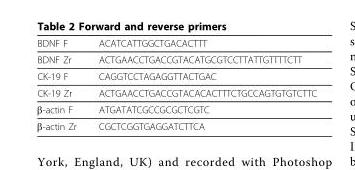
<table><thead><tr><td>BDNF F</td><td>ACATCATTGGCTGACACTTT</td></tr></thead><tbody><tr><td>BDNF Zr</td><td>ACTGAACCTGACCGTACATGCGTCCTTATTGTTTTCTT</td></tr><tr><td>CK-19 F</td><td>CAGGTCCTAGAGGTTACTGAC</td></tr><tr><td>CK-19 Zr</td><td>ACTGAACCTGACCGTACACACTTTCTGCCAGTGTGTCTTC</td></tr><tr><td>β-actin F</td><td>ATGATATCGCCGCGCTCGTC</td></tr><tr><td>β-actin Zr</td><td>CGCTCGGTGAGGATCTTCA</td></tr></tbody></table>